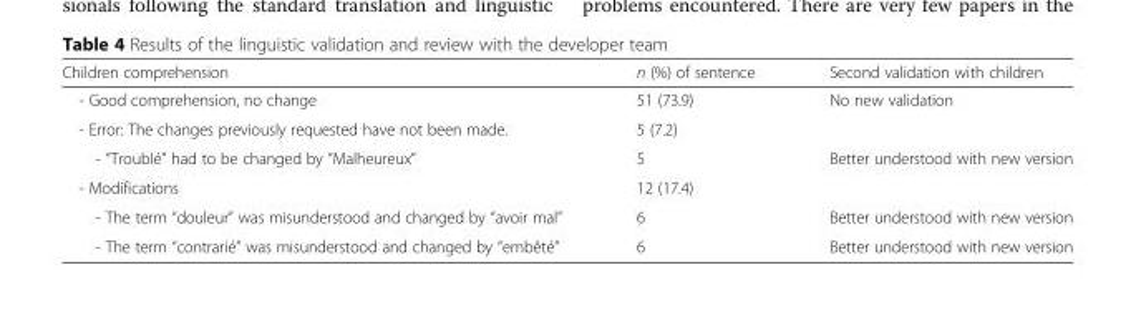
<table><thead><tr><td>Children comprehension</td><td>n (%) of sentence</td><td>Second validation with children</td></tr></thead><tbody><tr><td>- Good comprehension, no change</td><td>51 (73.9)</td><td>No new validation</td></tr><tr><td>- Error: The changes previously requested have not been made.</td><td>5 (7.2)</td><td></td></tr><tr><td>- “Troublé” had to be changed by “Malheureux”</td><td>5</td><td>Better understood with new version</td></tr><tr><td>- Modifications</td><td>12 (17.4)</td><td></td></tr><tr><td>- The term “douleur” was misunderstood and changed by “avoir mal”</td><td>6</td><td>Better understood with new version</td></tr><tr><td>- The term “contrarié” was misunderstood and changed by “embêté”</td><td>6</td><td>Better understood with new version</td></tr></tbody></table>